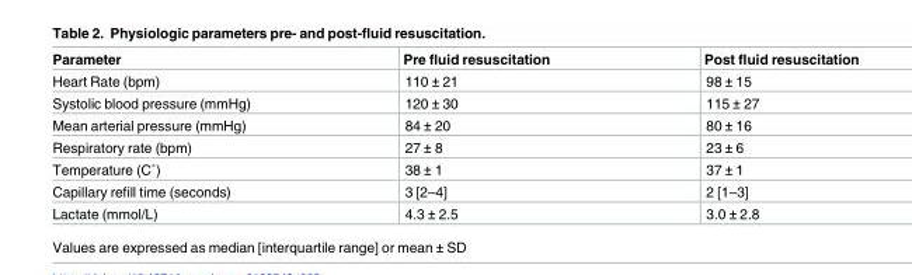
<table><thead><tr><td>Parameter</td><td>Pre fluid resuscitation</td><td>Post fluid resuscitation</td></tr></thead><tbody><tr><td>Heart Rate (bpm)</td><td>110 ± 21</td><td>98 ± 15</td></tr><tr><td>Systolic blood pressure (mmHg)</td><td>120 ± 30</td><td>115 ± 27</td></tr><tr><td>Mean arterial pressure (mmHg)</td><td>84 ± 20</td><td>80 ± 16</td></tr><tr><td>Respiratory rate (bpm)</td><td>27 ± 8</td><td>23 ± 6</td></tr><tr><td>Temperature (C˚)</td><td>38 ± 1</td><td>37 ± 1</td></tr><tr><td>Capillary refill time (seconds)</td><td>3 [2–4]</td><td>2 [1–3]</td></tr><tr><td>Lactate (mmol/L)</td><td>4.3 ± 2.5</td><td>3.0 ± 2.8</td></tr></tbody></table>